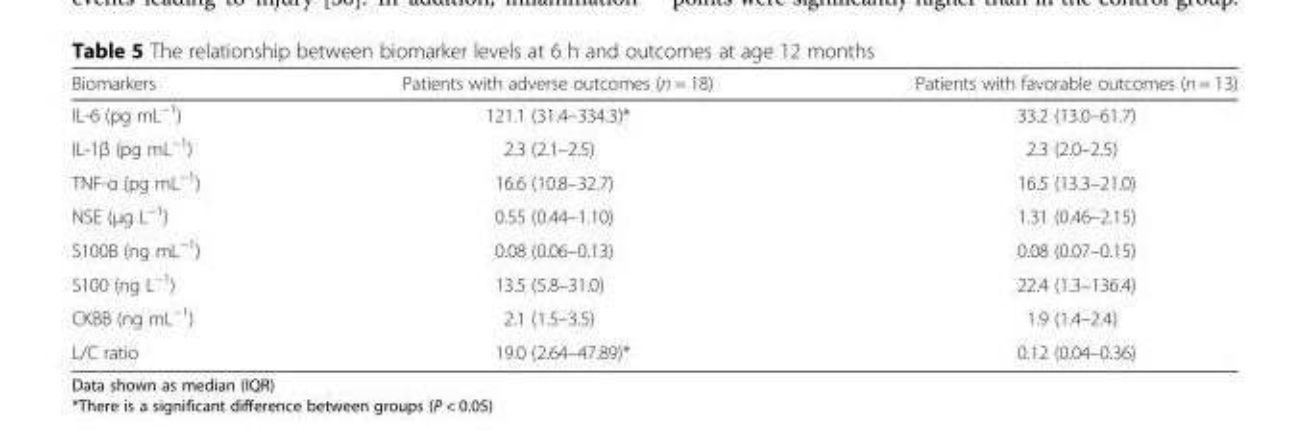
<table><thead><tr><td>Biomarkers</td><td>Patients with adverse outcomes (n = 18)</td><td>Patients with favorable outcomes (n = 13)</td></tr></thead><tbody><tr><td>IL-6 (pg mL<sup>−1</sup>)</td><td>121.1 (31.4–334.3)*</td><td>33.2 (13.0–61.7)</td></tr><tr><td>IL-1β (pg mL<sup>−1</sup>)</td><td>2.3 (2.1–2.5)</td><td>2.3 (2.0–2.5)</td></tr><tr><td>TNF-α (pg mL<sup>−1</sup>)</td><td>16.6 (10.8–32.7)</td><td>16.5 (13.3–21.0)</td></tr><tr><td>NSE (μg L<sup>−1</sup>)</td><td>0.55 (0.44–1.10)</td><td>1.31 (0.46–2.15)</td></tr><tr><td>S100B (ng mL<sup>−1</sup>)</td><td>0.08 (0.06–0.13)</td><td>0.08 (0.07–0.15)</td></tr><tr><td>S100 (ng L<sup>−1</sup>)</td><td>13.5 (5.8–31.0)</td><td>22.4 (1.3–136.4)</td></tr><tr><td>CKBB (ng mL<sup>−1</sup>)</td><td>2.1 (1.5–3.5)</td><td>1.9 (1.4–2.4)</td></tr><tr><td>L/C ratio</td><td>19.0 (2.64–47.89)*</td><td>0.12 (0.04–0.36)</td></tr></tbody></table>